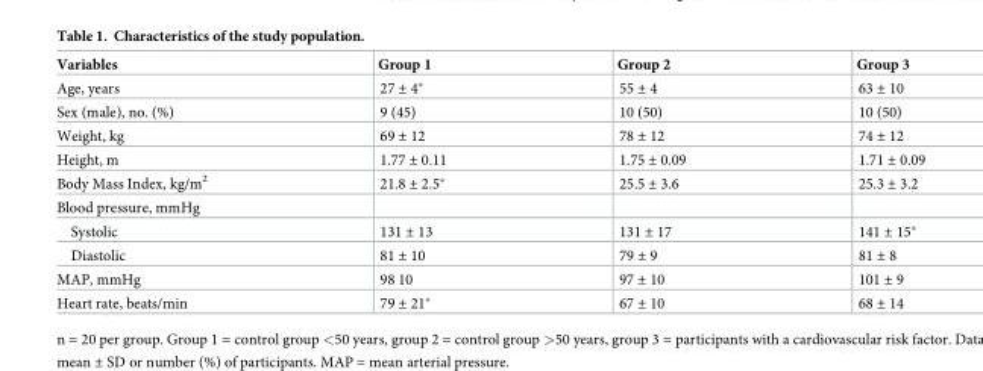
<table><thead><tr><td>Variables</td><td>Group 1</td><td>Group 2</td><td>Group 3</td></tr></thead><tbody><tr><td>Age, years</td><td>27 ± 4*</td><td>55 ± 4</td><td>63 ± 10</td></tr><tr><td>Sex (male), no. (%)</td><td>9 (45)</td><td>10 (50)</td><td>10 (50)</td></tr><tr><td>Weight, kg</td><td>69 ± 12</td><td>78 ± 12</td><td>74 ± 12</td></tr><tr><td>Height, m</td><td>1.77 ± 0.11</td><td>1.75 ± 0.09</td><td>1.71 ± 0.09</td></tr><tr><td>Body Mass Index, kg/m<sup>2</sup></td><td>21.8 ± 2.5*</td><td>25.5 ± 3.6</td><td>25.3 ± 3.2</td></tr><tr><td colspan="4">Blood pressure, mmHg</td></tr><tr><td>Systolic</td><td>131 ± 13</td><td>131 ± 17</td><td>141 ± 15*</td></tr><tr><td>Diastolic</td><td>81 ± 10</td><td>79 ± 9</td><td>81 ± 8</td></tr><tr><td>MAP, mmHg</td><td>98 10</td><td>97 ± 10</td><td>101 ± 9</td></tr><tr><td>Heart rate, beats/min</td><td>79 ± 21*</td><td>67 ± 10</td><td>68 ± 14</td></tr></tbody></table>